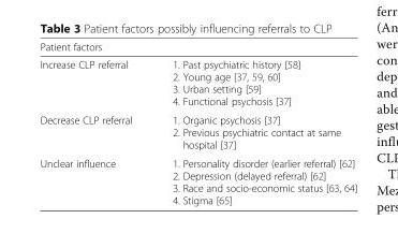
<table><thead><tr><td colspan="2">Patient factors</td></tr><tr><td>Increase CLP referral</td><td>1. Past psychiatric history [58] 2. Young age [37, 59, 60] 3. Urban setting [59] 4. Functional psychosis [37]</td></tr></thead><tbody><tr><td>Decrease CLP referral</td><td>1. Organic psychosis [37] 2. Previous psychiatric contact at same hospital [37]</td></tr><tr><td>Unclear influence</td><td>1. Personality disorder (earlier referral) [62] 2. Depression (delayed referral) [62] 3. Race and socio-economic status [63, 64] 4. Stigma [65]</td></tr></tbody></table>